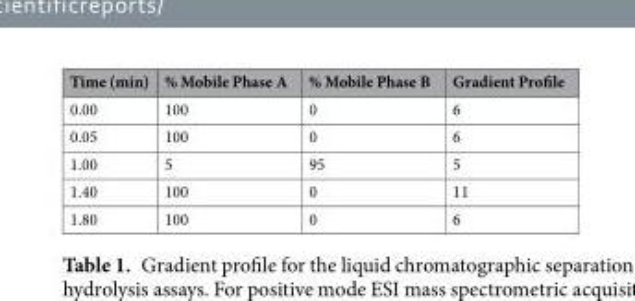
<table><thead><tr><td>Time (min)</td><td>% Mobile Phase A</td><td>% Mobile Phase B</td><td>Gradient Profile</td></tr></thead><tbody><tr><td>0.00</td><td>100</td><td>0</td><td>6</td></tr><tr><td>0.05</td><td>100</td><td>0</td><td>6</td></tr><tr><td>1.00</td><td>5</td><td>95</td><td>5</td></tr><tr><td>1.40</td><td>100</td><td>0</td><td>11</td></tr><tr><td>1.80</td><td>100</td><td>0</td><td>6</td></tr></tbody></table>